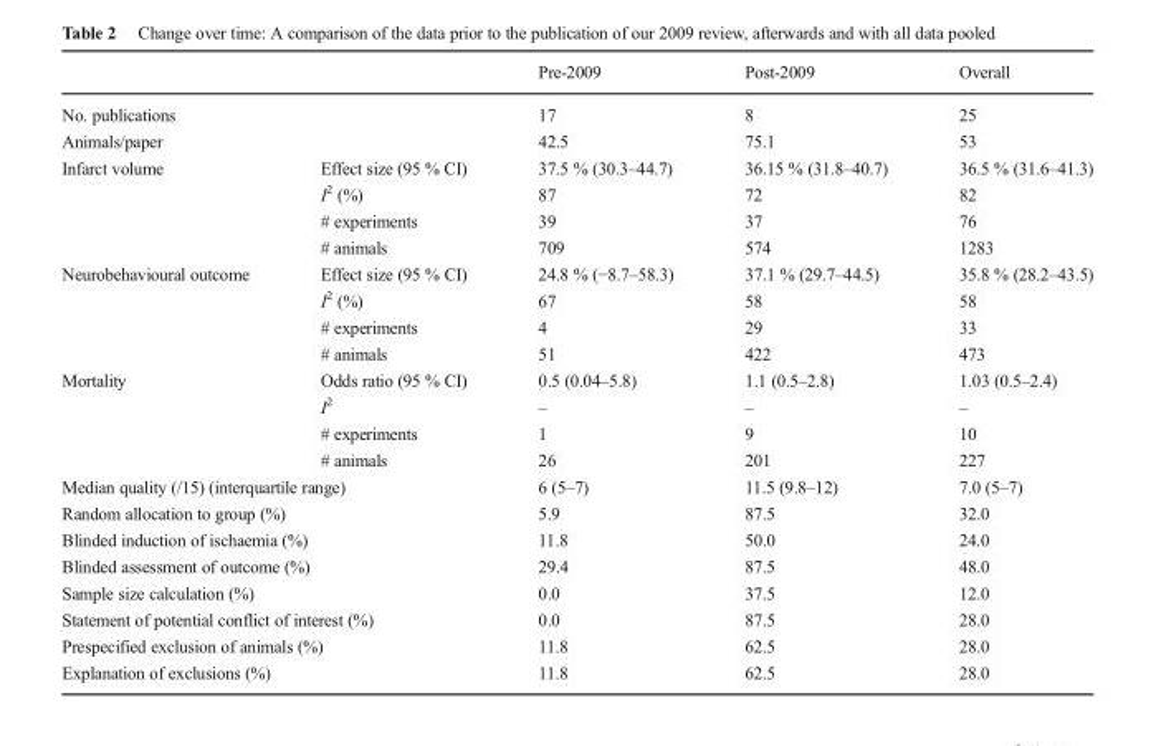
<table><thead><tr><td></td><td></td><td>Pre-2009</td><td>Post-2009</td><td>Overall</td></tr></thead><tbody><tr><td colspan="2">No. publications</td><td>17</td><td>8</td><td>25</td></tr><tr><td colspan="2">Animals/paper</td><td>42.5</td><td>75.1</td><td>53</td></tr><tr><td rowspan="4">Infarct volume</td><td>Effect size (95 % CI)</td><td>37.5 % (30.3–44.7)</td><td>36.15 % (31.8–40.7)</td><td>36.5 % (31.6–41.3)</td></tr><tr><td>I<sup>2</sup> (%)</td><td>87</td><td>72</td><td>82</td></tr><tr><td># experiments</td><td>39</td><td>37</td><td>76</td></tr><tr><td># animals</td><td>709</td><td>574</td><td>1283</td></tr><tr><td rowspan="4">Neurobehavioural outcome</td><td>Effect size (95 % CI)</td><td>24.8 % (−8.7–58.3)</td><td>37.1 % (29.7–44.5)</td><td>35.8 % (28.2–43.5)</td></tr><tr><td>I<sup>2</sup> (%)</td><td>67</td><td>58</td><td>58</td></tr><tr><td># experiments</td><td>4</td><td>29</td><td>33</td></tr><tr><td># animals</td><td>51</td><td>422</td><td>473</td></tr><tr><td rowspan="4">Mortality</td><td>Odds ratio (95 % CI)</td><td>0.5 (0.04–5.8)</td><td>1.1 (0.5–2.8)</td><td>1.03 (0.5–2.4)</td></tr><tr><td>I<sup>2</sup></td><td>–</td><td>–</td><td>–</td></tr><tr><td># experiments</td><td>1</td><td>9</td><td>10</td></tr><tr><td># animals</td><td>26</td><td>201</td><td>227</td></tr><tr><td colspan="2">Median quality (/15) (interquartile range)</td><td>6 (5–7)</td><td>11.5 (9.8–12)</td><td>7.0 (5–7)</td></tr><tr><td colspan="2">Random allocation to group (%)</td><td>5.9</td><td>87.5</td><td>32.0</td></tr><tr><td colspan="2">Blinded induction of ischaemia (%)</td><td>11.8</td><td>50.0</td><td>24.0</td></tr><tr><td colspan="2">Blinded assessment of outcome (%)</td><td>29.4</td><td>87.5</td><td>48.0</td></tr><tr><td colspan="2">Sample size calculation (%)</td><td>0.0</td><td>37.5</td><td>12.0</td></tr><tr><td colspan="2">Statement of potential conflict of interest (%)</td><td>0.0</td><td>87.5</td><td>28.0</td></tr><tr><td colspan="2">Prespecified exclusion of animals (%)</td><td>11.8</td><td>62.5</td><td>28.0</td></tr><tr><td colspan="2">Explanation of exclusions (%)</td><td>11.8</td><td>62.5</td><td>28.0</td></tr></tbody></table>